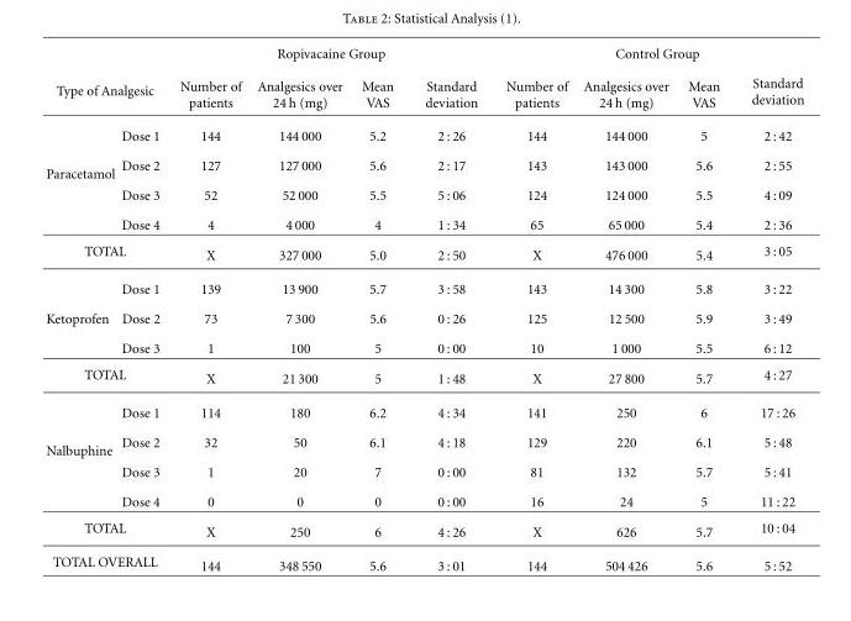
<table><thead><tr><td></td><td></td><td colspan="4">Ropivacaine Group</td><td colspan="4">Control Group</td></tr><tr><td colspan="2">Type of Analgesic</td><td>Number of patients</td><td>Analgesics over 24 h (mg)</td><td>Mean VAS</td><td>Standard deviation</td><td>Number of patients</td><td>Analgesics over 24 h (mg)</td><td>Mean VAS</td><td>Standard deviation</td></tr></thead><tbody><tr><td></td><td>Dose 1</td><td>144</td><td>144 000</td><td>5.2</td><td>2 : 26</td><td>144</td><td>144 000</td><td>5</td><td>2 : 42</td></tr><tr><td rowspan="3">Paracetamol</td><td>Dose 2</td><td>127</td><td>127 000</td><td>5.6</td><td>2 : 17</td><td>143</td><td>143 000</td><td>5.6</td><td>2 : 55</td></tr><tr><td>Dose 3</td><td>52</td><td>52 000</td><td>5.5</td><td>5 : 06</td><td>124</td><td>124 000</td><td>5.5</td><td>4 : 09</td></tr><tr><td>Dose 4</td><td>4</td><td>4 000</td><td>4</td><td>1 : 34</td><td>65</td><td>65 000</td><td>5.4</td><td>2 : 36</td></tr><tr><td colspan="2">TOTAL</td><td>X</td><td>327 000</td><td>5.0</td><td>2 : 50</td><td>X</td><td>476 000</td><td>5.4</td><td>3 : 05</td></tr><tr><td></td><td>Dose 1</td><td>139</td><td>13 900</td><td>5.7</td><td>3 : 58</td><td>143</td><td>14 300</td><td>5.8</td><td>3 : 22</td></tr><tr><td rowspan="2">Ketoprofen</td><td>Dose 2</td><td>73</td><td>7 300</td><td>5.6</td><td>0 : 26</td><td>125</td><td>12 500</td><td>5.9</td><td>3 : 49</td></tr><tr><td>Dose 3</td><td>1</td><td>100</td><td>5</td><td>0 : 00</td><td>10</td><td>1 000</td><td>5.5</td><td>6 : 12</td></tr><tr><td colspan="2">TOTAL</td><td>X</td><td>21 300</td><td>5</td><td>1 : 48</td><td>X</td><td>27 800</td><td>5.7</td><td>4 : 27</td></tr><tr><td></td><td>Dose 1</td><td>114</td><td>180</td><td>6.2</td><td>4 : 34</td><td>141</td><td>250</td><td>6</td><td>17 : 26</td></tr><tr><td rowspan="3">Nalbuphine</td><td>Dose 2</td><td>32</td><td>50</td><td>6.1</td><td>4 : 18</td><td>129</td><td>220</td><td>6.1</td><td>5 : 48</td></tr><tr><td>Dose 3</td><td>1</td><td>20</td><td>7</td><td>0 : 00</td><td>81</td><td>132</td><td>5.7</td><td>5 : 41</td></tr><tr><td>Dose 4</td><td>0</td><td>0</td><td>0</td><td>0 : 00</td><td>16</td><td>24</td><td>5</td><td>11 : 22</td></tr><tr><td colspan="2">TOTAL</td><td>X</td><td>250</td><td>6</td><td>4 : 26</td><td>X</td><td>626</td><td>5.7</td><td>10 : 04</td></tr><tr><td colspan="2">TOTAL OVERALL</td><td>144</td><td>348 550</td><td>5.6</td><td>3 : 01</td><td>144</td><td>504 426</td><td>5.6</td><td>5 : 52</td></tr></tbody></table>